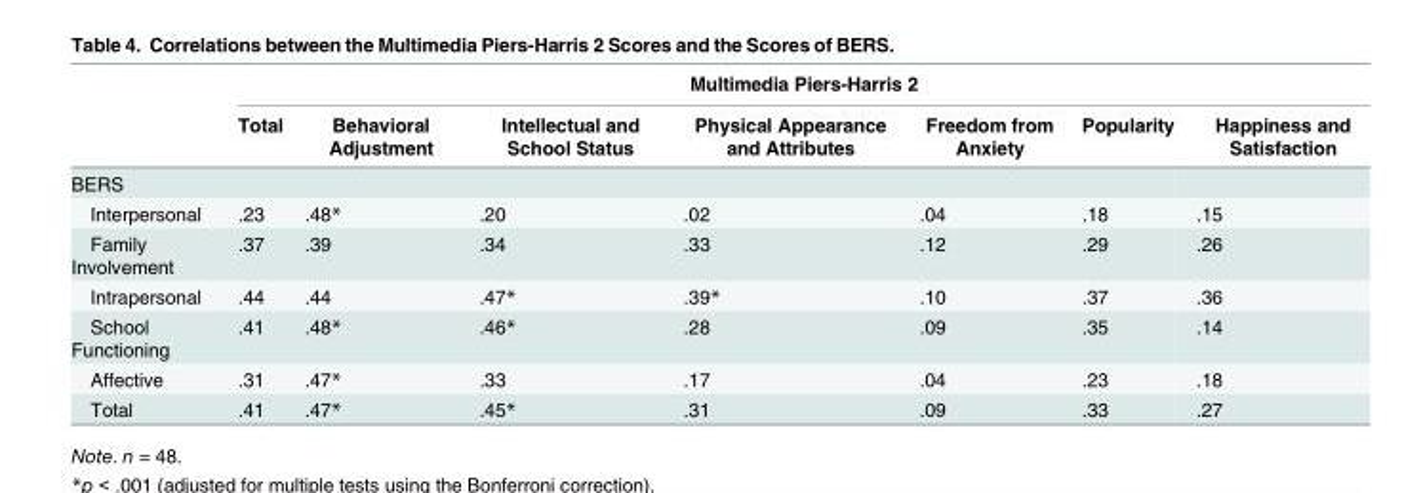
<table><thead><tr><td rowspan="2"></td><td colspan="7">Multimedia Piers-Harris 2</td></tr><tr><td>Total</td><td>Behavioral Adjustment</td><td>Intellectual and School Status</td><td>Physical Appearance and Attributes</td><td>Freedom from Anxiety</td><td>Popularity</td><td>Happiness and Satisfaction</td></tr></thead><tbody><tr><td colspan="8">BERS</td></tr><tr><td>Interpersonal</td><td>.23</td><td>.48*</td><td>.20</td><td>.02</td><td>.04</td><td>.18</td><td>.15</td></tr><tr><td>Family Involvement</td><td>.37</td><td>.39</td><td>.34</td><td>.33</td><td>.12</td><td>.29</td><td>.26</td></tr><tr><td>Intrapersonal</td><td>.44</td><td>.44</td><td>.47*</td><td>.39*</td><td>.10</td><td>.37</td><td>.36</td></tr><tr><td>School Functioning</td><td>.41</td><td>.48*</td><td>.46*</td><td>.28</td><td>.09</td><td>.35</td><td>.14</td></tr><tr><td>Affective</td><td>.31</td><td>.47*</td><td>.33</td><td>.17</td><td>.04</td><td>.23</td><td>.18</td></tr><tr><td>Total</td><td>.41</td><td>.47*</td><td>.45*</td><td>.31</td><td>.09</td><td>.33</td><td>.27</td></tr></tbody></table>